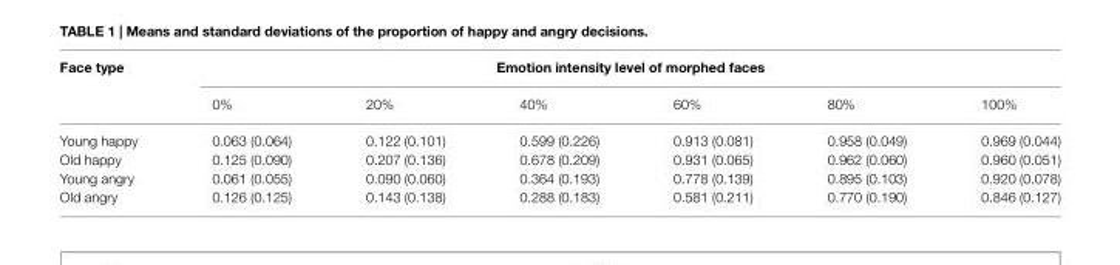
<table><thead><tr><td rowspan="2">Face type</td><td colspan="6">Emotion intensity level of morphed faces</td></tr><tr><td>0%</td><td>20%</td><td>40%</td><td>60%</td><td>80%</td><td>100%</td></tr></thead><tbody><tr><td>Young happy</td><td>0.063 (0.064)</td><td>0.122 (0.101)</td><td>0.599 (0.226)</td><td>0.913 (0.081)</td><td>0.958 (0.049)</td><td>0.969 (0.044)</td></tr><tr><td>Old happy</td><td>0.125 (0.090)</td><td>0.207 (0.136)</td><td>0.678 (0.209)</td><td>0.931 (0.065)</td><td>0.962 (0.060)</td><td>0.960 (0.051)</td></tr><tr><td>Young angry</td><td>0.061 (0.055)</td><td>0.090 (0.060)</td><td>0.364 (0.193)</td><td>0.778 (0.139)</td><td>0.895 (0.103)</td><td>0.920 (0.078)</td></tr><tr><td>Old angry</td><td>0.126 (0.125)</td><td>0.143 (0.138)</td><td>0.288 (0.183)</td><td>0.581 (0.211)</td><td>0.770 (0.190)</td><td>0.846 (0.127)</td></tr></tbody></table>